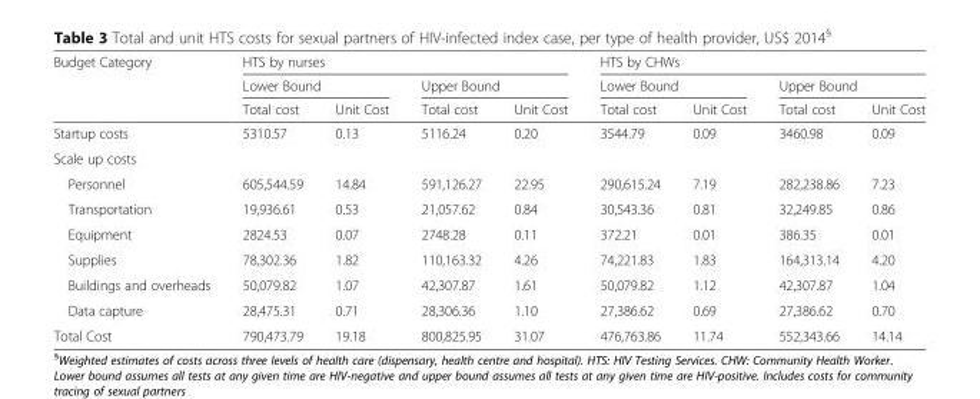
<table><thead><tr><td rowspan="3">Budget Category</td><td colspan="4">HTS by nurses</td><td colspan="4">HTS by CHWs</td></tr><tr><td colspan="2">Lower Bound</td><td colspan="2">Upper Bound</td><td colspan="2">Lower Bound</td><td colspan="2">Upper Bound</td></tr><tr><td>Total cost</td><td>Unit Cost</td><td>Total cost</td><td>Unit Cost</td><td>Total cost</td><td>Unit Cost</td><td>Total cost</td><td>Unit Cost</td></tr></thead><tbody><tr><td>Startup costs</td><td>5310.57</td><td>0.13</td><td>5116.24</td><td>0.20</td><td>3544.79</td><td>0.09</td><td>3460.98</td><td>0.09</td></tr><tr><td colspan="9">Scale up costs</td></tr><tr><td>Personnel</td><td>605,544.59</td><td>14.84</td><td>591,126.27</td><td>22.95</td><td>290,615.24</td><td>7.19</td><td>282,238.86</td><td>7.23</td></tr><tr><td>Transportation</td><td>19,936.61</td><td>0.53</td><td>21,057.62</td><td>0.84</td><td>30,543.36</td><td>0.81</td><td>32,249.85</td><td>0.86</td></tr><tr><td>Equipment</td><td>2824.53</td><td>0.07</td><td>2748.28</td><td>0.11</td><td>372.21</td><td>0.01</td><td>386.35</td><td>0.01</td></tr><tr><td>Supplies</td><td>78,302.36</td><td>1.82</td><td>110,163.32</td><td>4.26</td><td>74,221.83</td><td>1.83</td><td>164,313.14</td><td>4.20</td></tr><tr><td>Buildings and overheads</td><td>50,079.82</td><td>1.07</td><td>42,307.87</td><td>1.61</td><td>50,079.82</td><td>1.12</td><td>42,307.87</td><td>1.04</td></tr><tr><td>Data capture</td><td>28,475.31</td><td>0.71</td><td>28,306.36</td><td>1.10</td><td>27,386.62</td><td>0.69</td><td>27,386.62</td><td>0.70</td></tr><tr><td>Total Cost</td><td>790,473.79</td><td>19.18</td><td>800,825.95</td><td>31.07</td><td>476,763.86</td><td>11.74</td><td>552,343.66</td><td>14.14</td></tr></tbody></table>